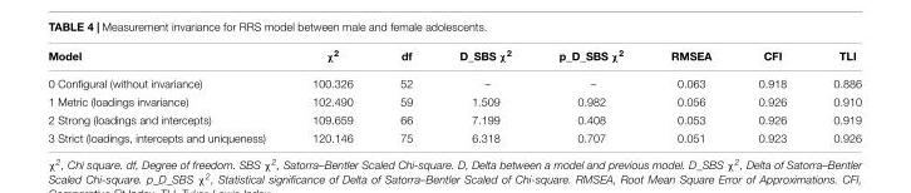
<table><thead><tr><td>Model</td><td>χ<sup>2</sup></td><td>df</td><td>D_SBS χ<sup>2</sup></td><td>p_D_SBS χ<sup>2</sup></td><td>RMSEA</td><td>CFI</td><td>TLI</td></tr></thead><tbody><tr><td>0 Configural (without invariance)</td><td>100.326</td><td>52</td><td>–</td><td>–</td><td>0.063</td><td>0.918</td><td>0.886</td></tr><tr><td>1 Metric (loadings invariance)</td><td>102.490</td><td>59</td><td>1.509</td><td>0.982</td><td>0.056</td><td>0.926</td><td>0.910</td></tr><tr><td>2 Strong (loadings and intercepts)</td><td>109.659</td><td>66</td><td>7.199</td><td>0.408</td><td>0.053</td><td>0.926</td><td>0.919</td></tr><tr><td>3 Strict (loadings, intercepts and uniqueness)</td><td>120.146</td><td>75</td><td>6.318</td><td>0.707</td><td>0.051</td><td>0.923</td><td>0.926</td></tr></tbody></table>